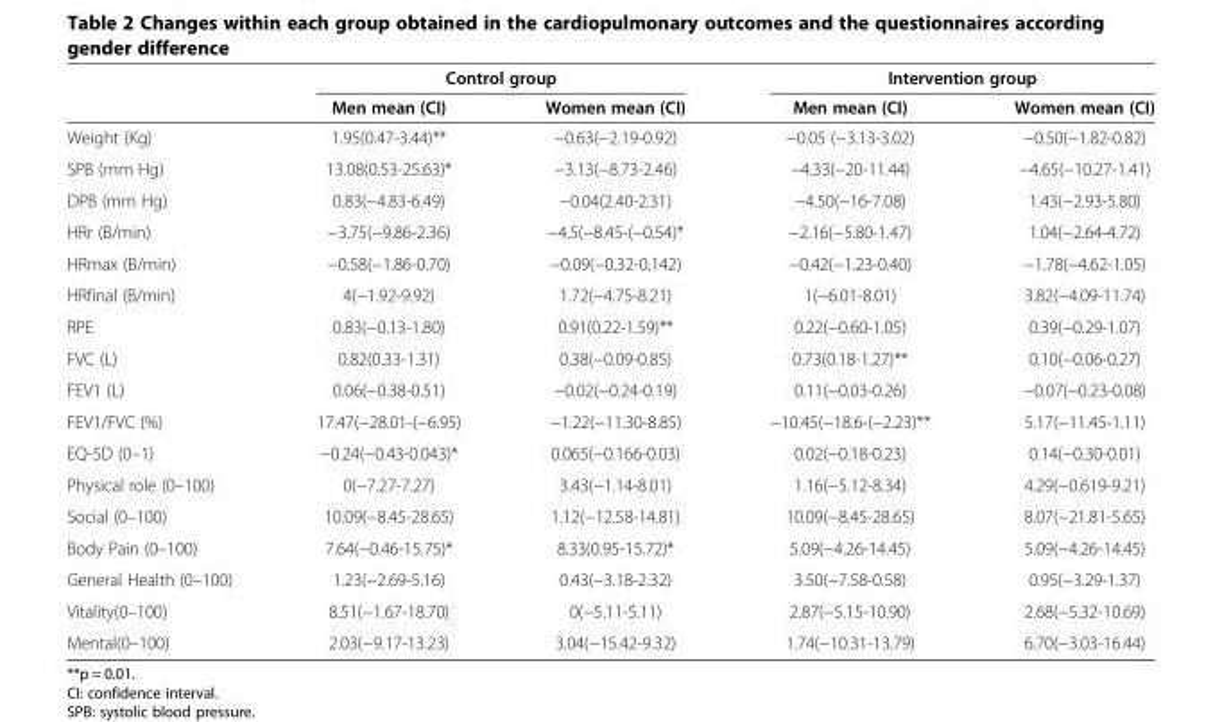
<table><thead><tr><td rowspan="2"></td><td colspan="2">Control group</td><td colspan="2">Intervention group</td></tr><tr><td>Men mean (CI)</td><td>Women mean (CI)</td><td>Men mean (CI)</td><td>Women mean (CI)</td></tr></thead><tbody><tr><td>Weight (Kg)</td><td>1.95(0.47-3.44)**</td><td>−0.63(−2.19-0.92)</td><td>−0.05 (−3.13-3.02)</td><td>−0.50(−1.82-0.82)</td></tr><tr><td>SPB (mm Hg)</td><td>13.08(0.53-25.63)*</td><td>−3.13(−8.73-2.46)</td><td>−4.33(−20-11.44)</td><td>−4.65(−10.27-1.41)</td></tr><tr><td>DPB (mm Hg)</td><td>0.83(−4.83-6.49)</td><td>−0.04(2.40-2.31)</td><td>−4.50(−16-7.08)</td><td>1.43(−2.93-5.80)</td></tr><tr><td>HRr (B/min)</td><td>−3.75(−9.86-2.36)</td><td>−4.5(−8.45-(−0.54)*</td><td>−2.16(−5.80-1.47)</td><td>1.04(−2.64-4.72)</td></tr><tr><td>HRmax (B/min)</td><td>−0.58(−1.86-0.70)</td><td>−0.09(−0.32-0.142)</td><td>−0.42(−1.23-0.40)</td><td>−1.78(−4.62-1.05)</td></tr><tr><td>HRfinal (B/min)</td><td>4(−1.92-9.92)</td><td>1.72(−4.75-8.21)</td><td>1(−6.01-8.01)</td><td>3.82(−4.09-11.74)</td></tr><tr><td>RPE</td><td>0.83(−0.13-1.80)</td><td>0.91(0.22-1.59)**</td><td>0.22(−0.60-1.05)</td><td>0.39(−0.29-1.07)</td></tr><tr><td>FVC (L)</td><td>0.82(0.33-1.31)</td><td>0.38(−0.09-0.85)</td><td>0.73(0.18-1.27)**</td><td>0.10(−0.06-0.27)</td></tr><tr><td>FEV1 (L)</td><td>0.06(−0.38-0.51)</td><td>−0.02(−0.24-0.19)</td><td>0.11(−0.03-0.26)</td><td>−0.07(−0.23-0.08)</td></tr><tr><td>FEV1/FVC (%)</td><td>17.47(−28.01-(−6.95)</td><td>−1.22(−11.30-8.85)</td><td>−10.45(−18.6-(−2.23)**</td><td>5.17(−11.45-1.11)</td></tr><tr><td>EQ-5D (0–1)</td><td>−0.24(−0.43-0.043)*</td><td>0.065(−0.166-0.03)</td><td>0.02(−0.18-0.23)</td><td>0.14(−0.30-0.01)</td></tr><tr><td>Physical role (0–100)</td><td>0(−7.27-7.27)</td><td>3.43(−1.14-8.01)</td><td>1.16(−5.12-8.34)</td><td>4.29(−0.619-9.21)</td></tr><tr><td>Social (0–100)</td><td>10.09(−8.45-28.65)</td><td>1.12(−12.58-14.81)</td><td>10.09(−8.45-28.65)</td><td>8.07(−21.81-5.65)</td></tr><tr><td>Body Pain (0–100)</td><td>7.64(−0.46-15.75)*</td><td>8.33(0.95-15.72)*</td><td>5.09(−4.26-14.45)</td><td>5.09(−4.26-14.45)</td></tr><tr><td>General Health (0–100)</td><td>1.23(−2.69-5.16)</td><td>0.43(−3.18-2.32)</td><td>3.50(−7.58-0.58)</td><td>0.95(−3.29-1.37)</td></tr><tr><td>Vitality(0–100)</td><td>8.51(−1.67-18.70)</td><td>0(−5.11-5.11)</td><td>2.87(−5.15-10.90)</td><td>2.68(−5.32-10.69)</td></tr><tr><td>Mental(0–100)</td><td>2.03(−9.17-13.23)</td><td>3.04(−15.42-9.32)</td><td>1.74(−10.31-13.79)</td><td>6.70(−3.03-16.44)</td></tr></tbody></table>